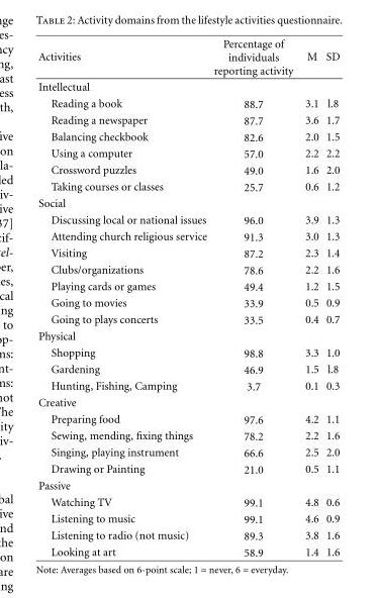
<table><thead><tr><td>Activities</td><td>Percentage of individuals reporting activity</td><td>M</td><td>SD</td></tr></thead><tbody><tr><td colspan="4">Intellectual</td></tr><tr><td>Reading a book</td><td>88.7</td><td>3.1</td><td>l.8</td></tr><tr><td>Reading a newspaper</td><td>87.7</td><td>3.6</td><td>1.7</td></tr><tr><td>Balancing checkbook</td><td>82.6</td><td>2.0</td><td>1.5</td></tr><tr><td>Using a computer</td><td>57.0</td><td>2.2</td><td>2.2</td></tr><tr><td>Crossword puzzles</td><td>49.0</td><td>1.6</td><td>2.0</td></tr><tr><td>Taking courses or classes</td><td>25.7</td><td>0.6</td><td>1.2</td></tr><tr><td colspan="4">Social</td></tr><tr><td>Discussing local or national issues</td><td>96.0</td><td>3.9</td><td>1.3</td></tr><tr><td>Attending church religious service</td><td>91.3</td><td>3.0</td><td>1.3</td></tr><tr><td>Visiting</td><td>87.2</td><td>2.3</td><td>1.4</td></tr><tr><td>Clubs/organizations</td><td>78.6</td><td>2.2</td><td>1.6</td></tr><tr><td>Playing cards or games</td><td>49.4</td><td>1.2</td><td>1.5</td></tr><tr><td>Going to movies</td><td>33.9</td><td>0.5</td><td>0.9</td></tr><tr><td>Going to plays concerts</td><td>33.5</td><td>0.4</td><td>0.7</td></tr><tr><td colspan="4">Physical</td></tr><tr><td>Shopping</td><td>98.8</td><td>3.3</td><td>1.0</td></tr><tr><td>Gardening</td><td>46.9</td><td>1.5</td><td>l.8</td></tr><tr><td>Hunting, Fishing, Camping</td><td>3.7</td><td>0.1</td><td>0.3</td></tr><tr><td colspan="4">Creative</td></tr><tr><td>Preparing food</td><td>97.6</td><td>4.2</td><td>1.1</td></tr><tr><td>Sewing, mending, fixing things</td><td>78.2</td><td>2.2</td><td>1.6</td></tr><tr><td>Singing, playing instrument</td><td>66.6</td><td>2.5</td><td>2.0</td></tr><tr><td>Drawing or Painting</td><td>21.0</td><td>0.5</td><td>1.1</td></tr><tr><td colspan="4">Passive</td></tr><tr><td>Watching TV</td><td>99.1</td><td>4.8</td><td>0.6</td></tr><tr><td>Listening to music</td><td>99.1</td><td>4.6</td><td>0.9</td></tr><tr><td>Listening to radio (not music)</td><td>89.3</td><td>3.8</td><td>1.6</td></tr><tr><td>Looking at art</td><td>58.9</td><td>1.4</td><td>1.6</td></tr></tbody></table>